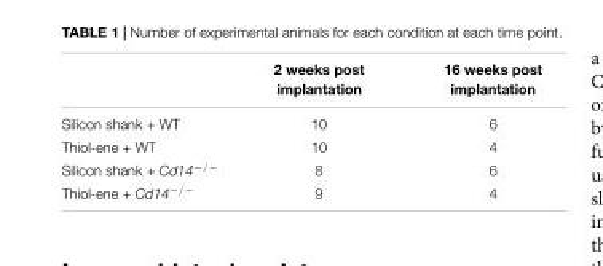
<table><thead><tr><td></td><td>2 weeks post implantation</td><td>16 weeks post implantation</td></tr></thead><tbody><tr><td>Silicon shank + WT</td><td>10</td><td>6</td></tr><tr><td>Thiol-ene + WT</td><td>10</td><td>4</td></tr><tr><td>Silicon shank + Cd14<sup>−/−</sup></td><td>8</td><td>6</td></tr><tr><td>Thiol-ene + Cd14<sup>−/−</sup></td><td>9</td><td>4</td></tr></tbody></table>